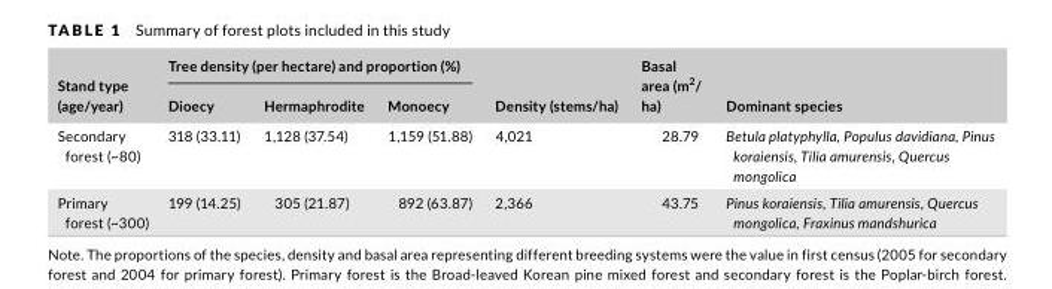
<table><thead><tr><td rowspan="2">Stand type (age/year)</td><td colspan="3">Tree density (per hectare) and proportion (%)</td><td rowspan="2">Density (stems/ha)</td><td rowspan="2">Basal area (m<sup>2</sup>/ ha)</td><td rowspan="2">Dominant species</td></tr><tr><td>Dioecy</td><td>Hermaphrodite</td><td>Monoecy</td></tr></thead><tbody><tr><td>Secondary forest (~80)</td><td>318 (33.11)</td><td>1,128 (37.54)</td><td>1,159 (51.88)</td><td>4,021</td><td>28.79</td><td>Betula platyphylla, Populus davidiana, Pinus koraiensis, Tilia amurensis, Quercus mongolica</td></tr><tr><td>Primary forest (~300)</td><td>199 (14.25)</td><td>305 (21.87)</td><td>892 (63.87)</td><td>2,366</td><td>43.75</td><td>Pinus koraiensis, Tilia amurensis, Quercus mongolica, Fraxinus mandshurica</td></tr></tbody></table>